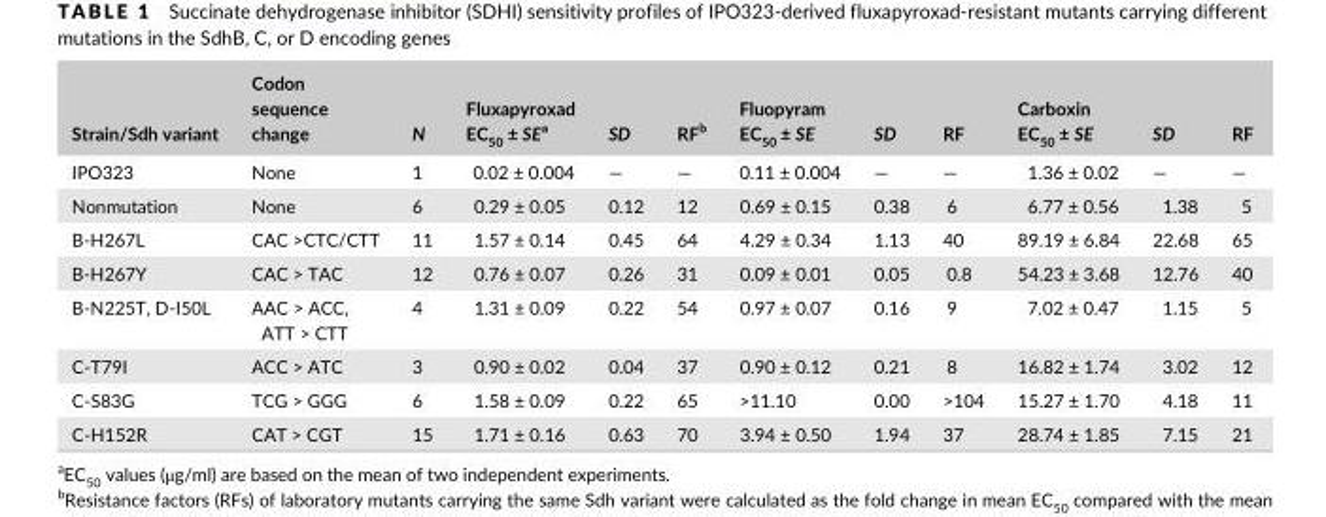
<table><thead><tr><td>Strain/Sdh variant</td><td>Codon sequence change</td><td>N</td><td>Fluxapyroxad EC<sub>50</sub> ± SEa</td><td>SD</td><td>RF<sup>b</sup></td><td>Fluopyram EC<sub>50</sub> ± SE</td><td>SD</td><td>RF</td><td>Carboxin EC<sub>50</sub> ± SE</td><td>SD</td><td>RF</td></tr></thead><tbody><tr><td>IPO323</td><td>None</td><td>1</td><td>0.02 ± 0.004</td><td>—</td><td>—</td><td>0.11 ± 0.004</td><td>—</td><td>—</td><td>1.36 ± 0.02</td><td>—</td><td>—</td></tr><tr><td>Nonmutation</td><td>None</td><td>6</td><td>0.29 ± 0.05</td><td>0.12</td><td>12</td><td>0.69 ± 0.15</td><td>0.38</td><td>6</td><td>6.77 ± 0.56</td><td>1.38</td><td>5</td></tr><tr><td>B- H267L</td><td>CAC &gt;CTC/CTT</td><td>11</td><td>1.57 ± 0.14</td><td>0.45</td><td>64</td><td>4.29 ± 0.34</td><td>1.13</td><td>40</td><td>89.19 ± 6.84</td><td>22.68</td><td>65</td></tr><tr><td>B- H267Y</td><td>CAC &gt; TAC</td><td>12</td><td>0.76 ± 0.07</td><td>0.26</td><td>31</td><td>0.09 ± 0.01</td><td>0.05</td><td>0.8</td><td>54.23 ± 3.68</td><td>12.76</td><td>40</td></tr><tr><td>B- N225T, D- I50L</td><td>AAC &gt; ACC, ATT &gt; CTT</td><td>4</td><td>1.31 ± 0.09</td><td>0.22</td><td>54</td><td>0.97 ± 0.07</td><td>0.16</td><td>9</td><td>7.02 ± 0.47</td><td>1.15</td><td>5</td></tr><tr><td>C- T79I</td><td>ACC &gt; ATC</td><td>3</td><td>0.90 ± 0.02</td><td>0.04</td><td>37</td><td>0.90 ± 0.12</td><td>0.21</td><td>8</td><td>16.82 ± 1.74</td><td>3.02</td><td>12</td></tr><tr><td>C- S83G</td><td>TCG &gt; GGG</td><td>6</td><td>1.58 ± 0.09</td><td>0.22</td><td>65</td><td>&gt;11.10</td><td>0.00</td><td>&gt;104</td><td>15.27 ± 1.70</td><td>4.18</td><td>11</td></tr><tr><td>C- H152R</td><td>CAT &gt; CGT</td><td>15</td><td>1.71 ± 0.16</td><td>0.63</td><td>70</td><td>3.94 ± 0.50</td><td>1.94</td><td>37</td><td>28.74 ± 1.85</td><td>7.15</td><td>21</td></tr></tbody></table>